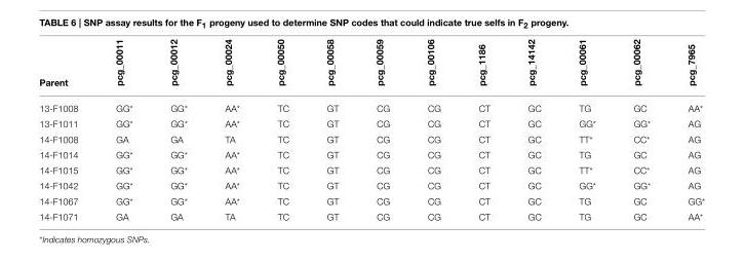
<table><thead><tr><td>Parent</td><td>pcg_00011</td><td>pcg_00012</td><td>pcg_00024</td><td>pcg_00050</td><td>pcg_00058</td><td>pcg_00059</td><td>pcg_00106</td><td>pcg_1186</td><td>pcg_14142</td><td>pcg_00061</td><td>pcg_00062</td><td>pcg_7965</td></tr></thead><tbody><tr><td>13-F1008</td><td>GG*</td><td>GG*</td><td>AA*</td><td>TC</td><td>GT</td><td>CG</td><td>CG</td><td>CT</td><td>GC</td><td>TG</td><td>GC</td><td>AA*</td></tr><tr><td>13-F1011</td><td>GG*</td><td>GG*</td><td>AA*</td><td>TC</td><td>GT</td><td>CG</td><td>CG</td><td>CT</td><td>GC</td><td>GG*</td><td>GG*</td><td>AG</td></tr><tr><td>14-F1008</td><td>GA</td><td>GA</td><td>TA</td><td>TC</td><td>GT</td><td>CG</td><td>CG</td><td>CT</td><td>GC</td><td>TT*</td><td>CC*</td><td>AG</td></tr><tr><td>14-F1014</td><td>GG*</td><td>GG*</td><td>AA*</td><td>TC</td><td>GT</td><td>CG</td><td>CG</td><td>CT</td><td>GC</td><td>TG</td><td>GC</td><td>AG</td></tr><tr><td>14-F1015</td><td>GG*</td><td>GG*</td><td>AA*</td><td>TC</td><td>GT</td><td>CG</td><td>CG</td><td>CT</td><td>GC</td><td>TT*</td><td>CC*</td><td>AG</td></tr><tr><td>14-F1042</td><td>GG*</td><td>GG*</td><td>AA*</td><td>TC</td><td>GT</td><td>CG</td><td>CG</td><td>CT</td><td>GC</td><td>GG*</td><td>GG*</td><td>AG</td></tr><tr><td>14-F1067</td><td>GG*</td><td>GG*</td><td>AA*</td><td>TC</td><td>GT</td><td>CG</td><td>CG</td><td>CT</td><td>GC</td><td>TG</td><td>GC</td><td>GG*</td></tr><tr><td>14-F1071</td><td>GA</td><td>GA</td><td>TA</td><td>TC</td><td>GT</td><td>CG</td><td>CG</td><td>CT</td><td>GC</td><td>TG</td><td>GC</td><td>AA*</td></tr></tbody></table>